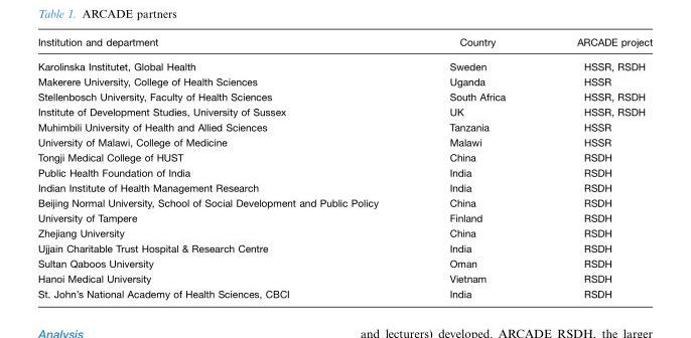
<table><thead><tr><td>Institution and department</td><td>Country</td><td>ARCADE project</td></tr></thead><tbody><tr><td>Karolinska Institutet, Global Health</td><td>Sweden</td><td>HSSR, RSDH</td></tr><tr><td>Makerere University, College of Health Sciences</td><td>Uganda</td><td>HSSR</td></tr><tr><td>Stellenbosch University, Faculty of Health Sciences</td><td>South Africa</td><td>HSSR, RSDH</td></tr><tr><td>Institute of Development Studies, University of Sussex</td><td>UK</td><td>HSSR, RSDH</td></tr><tr><td>Muhimbili University of Health and Allied Sciences</td><td>Tanzania</td><td>HSSR</td></tr><tr><td>University of Malawi, College of Medicine</td><td>Malawi</td><td>HSSR</td></tr><tr><td>Tongji Medical College of HUST</td><td>China</td><td>RSDH</td></tr><tr><td>Public Health Foundation of India</td><td>India</td><td>RSDH</td></tr><tr><td>Indian Institute of Health Management Research</td><td>India</td><td>RSDH</td></tr><tr><td>Beijing Normal University, School of Social Development and Public Policy</td><td>China</td><td>RSDH</td></tr><tr><td>University of Tampere</td><td>Finland</td><td>RSDH</td></tr><tr><td>Zhejiang University</td><td>China</td><td>RSDH</td></tr><tr><td>Ujjain Charitable Trust Hospital &amp; Research Centre</td><td>India</td><td>RSDH</td></tr><tr><td>Sultan Qaboos University</td><td>Oman</td><td>RSDH</td></tr><tr><td>Hanoi Medical University</td><td>Vietnam</td><td>RSDH</td></tr><tr><td>St. John’s National Academy of Health Sciences, CBCI</td><td>India</td><td>RSDH</td></tr></tbody></table>